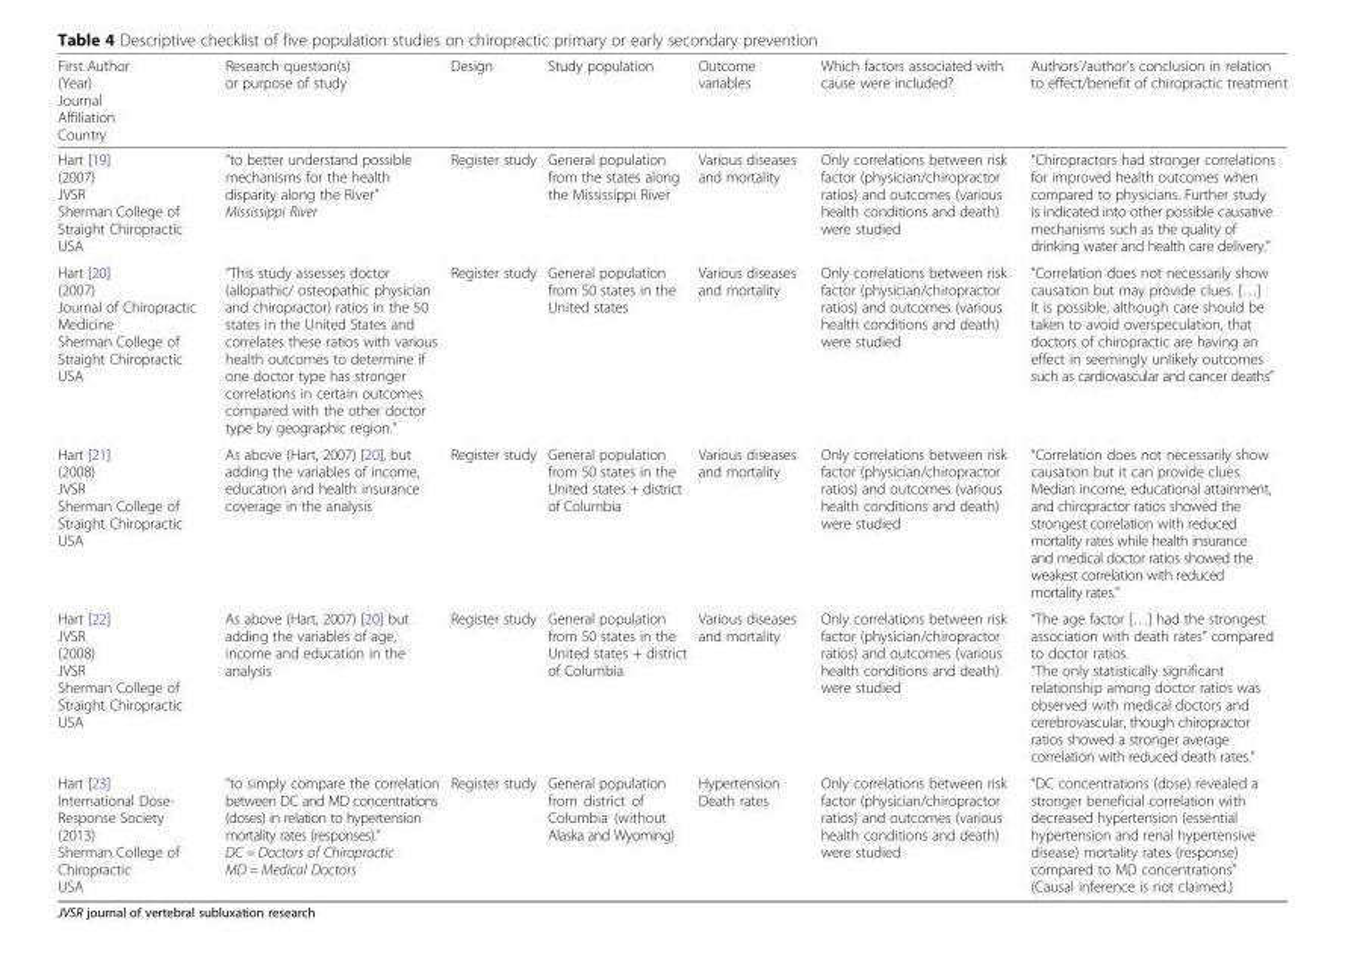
<table><thead><tr><td>First Author (Year) Journal Affiliation Country</td><td>Research question(s) or purpose of study</td><td>Design</td><td>Study population</td><td>Outcome variables</td><td>Which factors associated with cause were included?</td><td>Authors’/author’s conclusion in relation to effect/benefit of chiropractic treatment</td></tr></thead><tbody><tr><td>Hart [19] (2007) JVSR Sherman College of Straight Chiropractic USA</td><td>“to better understand possible mechanisms for the health disparity along the River” Mississippi River</td><td>Register study</td><td>General population from the states along the Mississippi River</td><td>Various diseases and mortality</td><td>Only correlations between risk factor (physician/chiropractor ratios) and outcomes (various health conditions and death) were studied</td><td>“Chiropractors had stronger correlations for improved health outcomes when compared to physicians. Further study is indicated into other possible causative mechanisms such as the quality of drinking water and health care delivery.”</td></tr><tr><td>Hart [20] (2007) Journal of Chiropractic Medicine Sherman College of Straight Chiropractic USA</td><td>“This study assesses doctor (allopathic/ osteopathic physician and chiropractor) ratios in the 50 states in the United States and correlates these ratios with various health outcomes to determine if one doctor type has stronger correlations in certain outcomes compared with the other doctor type by geographic region.”</td><td>Register study</td><td>General population from 50 states in the United states</td><td>Various diseases and mortality</td><td>Only correlations between risk factor (physician/chiropractor ratios) and outcomes (various health conditions and death) were studied</td><td>“Correlation does not necessarily show causation but may provide clues. […] It is possible, although care should be taken to avoid overspeculation, that doctors of chiropractic are having an effect in seemingly unlikely outcomes such as cardiovascular and cancer deaths”</td></tr><tr><td>Hart [21] (2008) JVSR Sherman College of Straight Chiropractic USA</td><td>As above (Hart, 2007) [20], but adding the variables of income, education and health insurance coverage in the analysis</td><td>Register study</td><td>General population from 50 states in the United states + district of Columbia</td><td>Various diseases and mortality</td><td>Only correlations between risk factor (physician/chiropractor ratios) and outcomes (various health conditions and death) were studied</td><td>“Correlation does not necessarily show causation but it can provide clues. Median income, educational attainment, and chiropractor ratios showed the strongest correlation with reduced mortality rates while health insurance and medical doctor ratios showed the weakest correlation with reduced mortality rates.”</td></tr><tr><td>Hart [22] JVSR (2008) JVSR Sherman College of Straight Chiropractic USA</td><td>As above (Hart, 2007) [20] but adding the variables of age, income and education in the analysis</td><td>Register study</td><td>General population from 50 states in the United states + district of Columbia</td><td>Various diseases and mortality</td><td>Only correlations between risk factor (physician/chiropractor ratios) and outcomes (various health conditions and death) were studied</td><td>“The age factor […] had the strongest association with death rates” compared to doctor ratios. “The only statistically significant relationship among doctor ratios was observed with medical doctors and cerebrovascular, though chiropractor ratios showed a stronger average correlation with reduced death rates.”</td></tr><tr><td>Hart [23] International Dose- Response Society (2013) Sherman College of Chiropractic USA</td><td>“to simply compare the correlation between DC and MD concentrations (doses) in relation to hypertension mortality rates (responses).” DC = Doctors of Chiropractic MD = Medical Doctors</td><td>Register study</td><td>General population from district of Columbia (without Alaska and Wyoming)</td><td>Hypertension Death rates</td><td>Only correlations between risk factor (physician/chiropractor ratios) and outcomes (various health conditions and death) were studied</td><td>“DC concentrations (dose) revealed a stronger beneficial correlation with decreased hypertension (essential hypertension and renal hypertensive disease) mortality rates (response) compared to MD concentrations” (Causal inference is not claimed.)</td></tr></tbody></table>